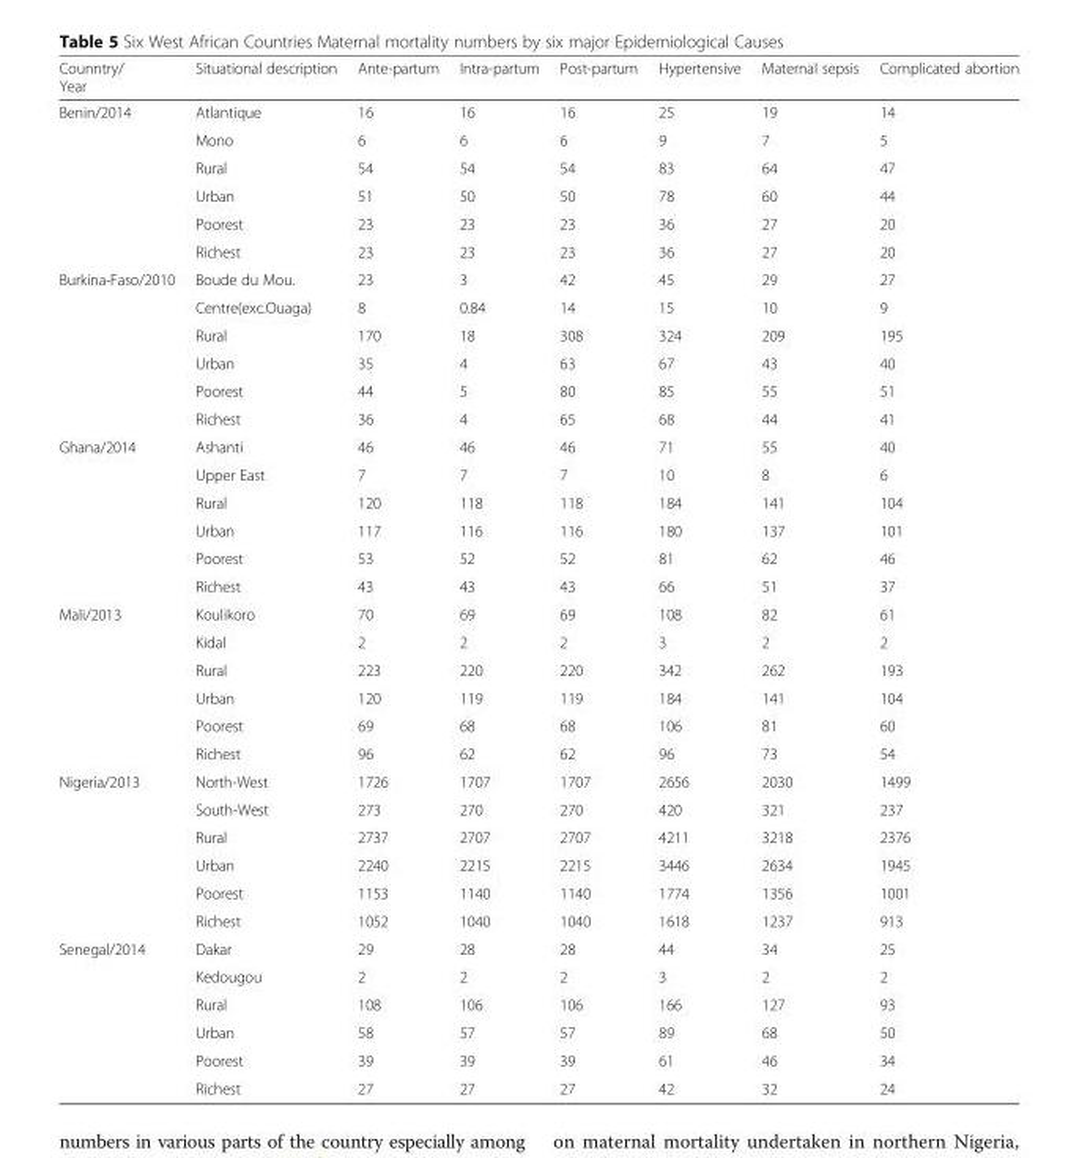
<table><thead><tr><td>Counntry/ Year</td><td>Situational description</td><td>Ante-partum</td><td>Intra-partum</td><td>Post-partum</td><td>Hypertensive</td><td>Maternal sepsis</td><td>Complicated abortion</td></tr></thead><tbody><tr><td rowspan="6">Benin/2014</td><td>Atlantique</td><td>16</td><td>16</td><td>16</td><td>25</td><td>19</td><td>14</td></tr><tr><td>Mono</td><td>6</td><td>6</td><td>6</td><td>9</td><td>7</td><td>5</td></tr><tr><td>Rural</td><td>54</td><td>54</td><td>54</td><td>83</td><td>64</td><td>47</td></tr><tr><td>Urban</td><td>51</td><td>50</td><td>50</td><td>78</td><td>60</td><td>44</td></tr><tr><td>Poorest</td><td>23</td><td>23</td><td>23</td><td>36</td><td>27</td><td>20</td></tr><tr><td>Richest</td><td>23</td><td>23</td><td>23</td><td>36</td><td>27</td><td>20</td></tr><tr><td rowspan="6">Burkina-Faso/2010</td><td>Boude du Mou.</td><td>23</td><td>3</td><td>42</td><td>45</td><td>29</td><td>27</td></tr><tr><td>Centre(exc.Ouaga)</td><td>8</td><td>0.84</td><td>14</td><td>15</td><td>10</td><td>9</td></tr><tr><td>Rural</td><td>170</td><td>18</td><td>308</td><td>324</td><td>209</td><td>195</td></tr><tr><td>Urban</td><td>35</td><td>4</td><td>63</td><td>67</td><td>43</td><td>40</td></tr><tr><td>Poorest</td><td>44</td><td>5</td><td>80</td><td>85</td><td>55</td><td>51</td></tr><tr><td>Richest</td><td>36</td><td>4</td><td>65</td><td>68</td><td>44</td><td>41</td></tr><tr><td rowspan="6">Ghana/2014</td><td>Ashanti</td><td>46</td><td>46</td><td>46</td><td>71</td><td>55</td><td>40</td></tr><tr><td>Upper East</td><td>7</td><td>7</td><td>7</td><td>10</td><td>8</td><td>6</td></tr><tr><td>Rural</td><td>120</td><td>118</td><td>118</td><td>184</td><td>141</td><td>104</td></tr><tr><td>Urban</td><td>117</td><td>116</td><td>116</td><td>180</td><td>137</td><td>101</td></tr><tr><td>Poorest</td><td>53</td><td>52</td><td>52</td><td>81</td><td>62</td><td>46</td></tr><tr><td>Richest</td><td>43</td><td>43</td><td>43</td><td>66</td><td>51</td><td>37</td></tr><tr><td rowspan="6">Mali/2013</td><td>Koulikoro</td><td>70</td><td>69</td><td>69</td><td>108</td><td>82</td><td>61</td></tr><tr><td>Kidal</td><td>2</td><td>2</td><td>2</td><td>3</td><td>2</td><td>2</td></tr><tr><td>Rural</td><td>223</td><td>220</td><td>220</td><td>342</td><td>262</td><td>193</td></tr><tr><td>Urban</td><td>120</td><td>119</td><td>119</td><td>184</td><td>141</td><td>104</td></tr><tr><td>Poorest</td><td>69</td><td>68</td><td>68</td><td>106</td><td>81</td><td>60</td></tr><tr><td>Richest</td><td>96</td><td>62</td><td>62</td><td>96</td><td>73</td><td>54</td></tr><tr><td rowspan="6">Nigeria/2013</td><td>North-West</td><td>1726</td><td>1707</td><td>1707</td><td>2656</td><td>2030</td><td>1499</td></tr><tr><td>South-West</td><td>273</td><td>270</td><td>270</td><td>420</td><td>321</td><td>237</td></tr><tr><td>Rural</td><td>2737</td><td>2707</td><td>2707</td><td>4211</td><td>3218</td><td>2376</td></tr><tr><td>Urban</td><td>2240</td><td>2215</td><td>2215</td><td>3446</td><td>2634</td><td>1945</td></tr><tr><td>Poorest</td><td>1153</td><td>1140</td><td>1140</td><td>1774</td><td>1356</td><td>1001</td></tr><tr><td>Richest</td><td>1052</td><td>1040</td><td>1040</td><td>1618</td><td>1237</td><td>913</td></tr><tr><td rowspan="6">Senegal/2014</td><td>Dakar</td><td>29</td><td>28</td><td>28</td><td>44</td><td>34</td><td>25</td></tr><tr><td>Kedougou</td><td>2</td><td>2</td><td>2</td><td>3</td><td>2</td><td>2</td></tr><tr><td>Rural</td><td>108</td><td>106</td><td>106</td><td>166</td><td>127</td><td>93</td></tr><tr><td>Urban</td><td>58</td><td>57</td><td>57</td><td>89</td><td>68</td><td>50</td></tr><tr><td>Poorest</td><td>39</td><td>39</td><td>39</td><td>61</td><td>46</td><td>34</td></tr><tr><td>Richest</td><td>27</td><td>27</td><td>27</td><td>42</td><td>32</td><td>24</td></tr></tbody></table>